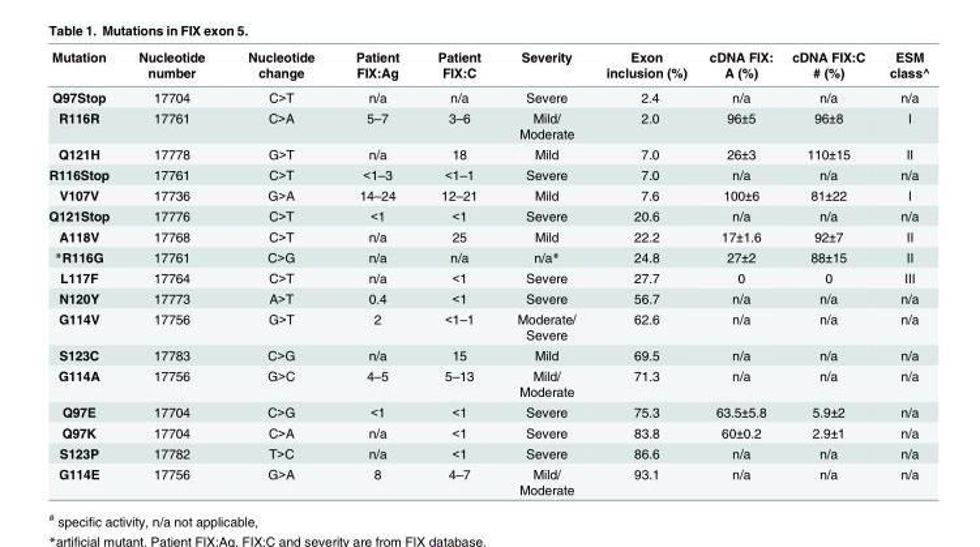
<table><thead><tr><td>Mutation</td><td>Nucleotide number</td><td>Nucleotide change</td><td>Patient FIX:Ag</td><td>Patient FIX:C</td><td>Severity</td><td>Exon inclusion (%)</td><td>cDNA FIX: A (%)</td><td>cDNA FIX:C # (%)</td><td>ESM class^</td></tr></thead><tbody><tr><td>Q97Stop</td><td>17704</td><td>C&gt;T</td><td>n/a</td><td>n/a</td><td>Severe</td><td>2.4</td><td>n/a</td><td>n/a</td><td>n/a</td></tr><tr><td>R116R</td><td>17761</td><td>C&gt;A</td><td>5–7</td><td>3–6</td><td>Mild/ Moderate</td><td>2.0</td><td>96±5</td><td>96±8</td><td>I</td></tr><tr><td>Q121H</td><td>17778</td><td>G&gt;T</td><td>n/a</td><td>18</td><td>Mild</td><td>7.0</td><td>26±3</td><td>110±15</td><td>II</td></tr><tr><td>R116Stop</td><td>17761</td><td>C&gt;T</td><td>&lt;1–3</td><td>&lt;1–1</td><td>Severe</td><td>7.0</td><td>n/a</td><td>n/a</td><td>n/a</td></tr><tr><td>V107V</td><td>17736</td><td>G&gt;A</td><td>14–24</td><td>12–21</td><td>Mild</td><td>7.6</td><td>100±6</td><td>81±22</td><td>I</td></tr><tr><td>Q121Stop</td><td>17776</td><td>C&gt;T</td><td>&lt;1</td><td>&lt;1</td><td>Severe</td><td>20.6</td><td>n/a</td><td>n/a</td><td>n/a</td></tr><tr><td>A118V</td><td>17768</td><td>C&gt;T</td><td>n/a</td><td>25</td><td>Mild</td><td>22.2</td><td>17±1.6</td><td>92±7</td><td>II</td></tr><tr><td>*R116G</td><td>17761</td><td>C&gt;G</td><td>n/a</td><td>n/a</td><td>n/a*</td><td>24.8</td><td>27±2</td><td>88±15</td><td>II</td></tr><tr><td>L117F</td><td>17764</td><td>C&gt;T</td><td>n/a</td><td>&lt;1</td><td>Severe</td><td>27.7</td><td>0</td><td>0</td><td>III</td></tr><tr><td>N120Y</td><td>17773</td><td>A&gt;T</td><td>0.4</td><td>&lt;1</td><td>Severe</td><td>56.7</td><td>n/a</td><td>n/a</td><td>n/a</td></tr><tr><td>G114V</td><td>17756</td><td>G&gt;T</td><td>2</td><td>&lt;1–1</td><td>Moderate/ Severe</td><td>62.6</td><td>n/a</td><td>n/a</td><td>n/a</td></tr><tr><td>S123C</td><td>17783</td><td>C&gt;G</td><td>n/a</td><td>15</td><td>Mild</td><td>69.5</td><td>n/a</td><td>n/a</td><td>n/a</td></tr><tr><td>G114A</td><td>17756</td><td>G&gt;C</td><td>4–5</td><td>5–13</td><td>Mild/ Moderate</td><td>71.3</td><td>n/a</td><td>n/a</td><td>n/a</td></tr><tr><td>Q97E</td><td>17704</td><td>C&gt;G</td><td>&lt;1</td><td>&lt;1</td><td>Severe</td><td>75.3</td><td>63.5±5.8</td><td>5.9±2</td><td>n/a</td></tr><tr><td>Q97K</td><td>17704</td><td>C&gt;A</td><td>n/a</td><td>&lt;1</td><td>Severe</td><td>83.8</td><td>60±0.2</td><td>2.9±1</td><td>n/a</td></tr><tr><td>S123P</td><td>17782</td><td>T&gt;C</td><td>n/a</td><td>&lt;1</td><td>Severe</td><td>86.6</td><td>n/a</td><td>n/a</td><td>n/a</td></tr><tr><td>G114E</td><td>17756</td><td>G&gt;A</td><td>8</td><td>4–7</td><td>Mild/ Moderate</td><td>93.1</td><td>n/a</td><td>n/a</td><td>n/a</td></tr></tbody></table>